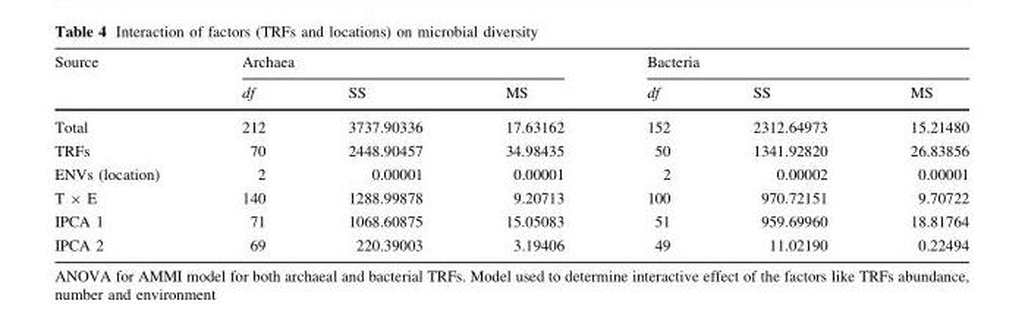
<table><thead><tr><td rowspan="2">Source</td><td colspan="3">Archaea</td><td colspan="3">Bacteria</td></tr><tr><td>df</td><td>SS</td><td>MS</td><td>df</td><td>SS</td><td>MS</td></tr></thead><tbody><tr><td>Total</td><td>212</td><td>3737.90336</td><td>17.63162</td><td>152</td><td>2312.64973</td><td>15.21480</td></tr><tr><td>TRFs</td><td>70</td><td>2448.90457</td><td>34.98435</td><td>50</td><td>1341.92820</td><td>26.83856</td></tr><tr><td>ENVs (location)</td><td>2</td><td>0.00001</td><td>0.00001</td><td>2</td><td>0.00002</td><td>0.00001</td></tr><tr><td>T × E</td><td>140</td><td>1288.99878</td><td>9.20713</td><td>100</td><td>970.72151</td><td>9.70722</td></tr><tr><td>IPCA 1</td><td>71</td><td>1068.60875</td><td>15.05083</td><td>51</td><td>959.69960</td><td>18.81764</td></tr><tr><td>IPCA 2</td><td>69</td><td>220.39003</td><td>3.19406</td><td>49</td><td>11.02190</td><td>0.22494</td></tr></tbody></table>